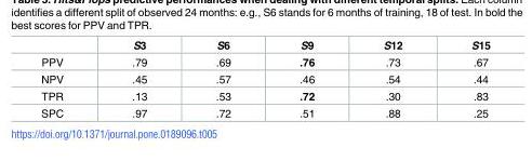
<table><thead><tr><td></td><td>S3</td><td>S6</td><td>S9</td><td>S12</td><td>S15</td></tr></thead><tbody><tr><td>PPV</td><td>.79</td><td>.69</td><td>.76</td><td>.73</td><td>.67</td></tr><tr><td>NPV</td><td>.45</td><td>.57</td><td>.46</td><td>.54</td><td>.44</td></tr><tr><td>TPR</td><td>.13</td><td>.53</td><td>.72</td><td>.30</td><td>.83</td></tr><tr><td>SPC</td><td>.97</td><td>.72</td><td>.51</td><td>.88</td><td>.25</td></tr></tbody></table>